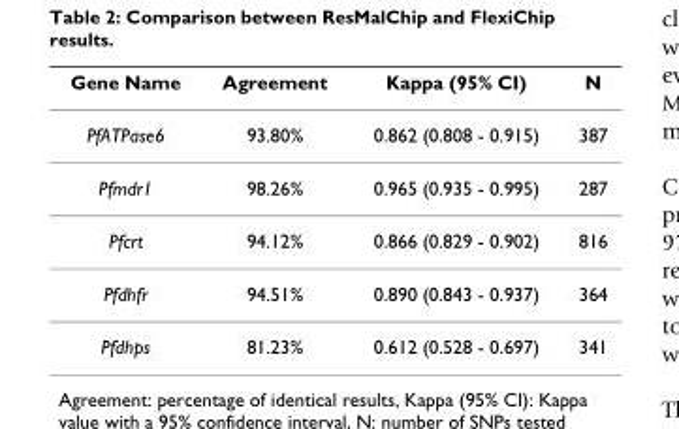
<table><thead><tr><td>Gene Name</td><td>Agreement</td><td>Kappa (95% CI)</td><td>N</td></tr></thead><tbody><tr><td>PfATPase6</td><td>93.80%</td><td>0.862 (0.808 - 0.915)</td><td>387</td></tr><tr><td>Pfmdr1</td><td>98.26%</td><td>0.965 (0.935 - 0.995)</td><td>287</td></tr><tr><td>Pfcrt</td><td>94.12%</td><td>0.866 (0.829 - 0.902)</td><td>816</td></tr><tr><td>Pfdhfr</td><td>94.51%</td><td>0.890 (0.843 - 0.937)</td><td>364</td></tr><tr><td>Pfdhps</td><td>81.23%</td><td>0.612 (0.528 - 0.697)</td><td>341</td></tr></tbody></table>